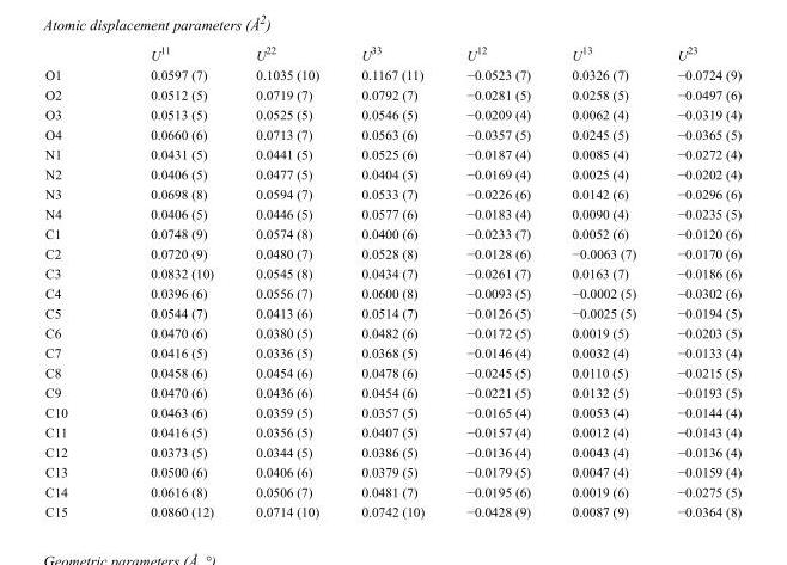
<table><thead><tr><td></td><td>U<sup>11</sup></td><td>U<sup>22</sup></td><td>U<sup>33</sup></td><td>U<sup>12</sup></td><td>U<sup>13</sup></td><td>U<sup>23</sup></td></tr></thead><tbody><tr><td>O1</td><td>0.0597 (7)</td><td>0.1035 (10)</td><td>0.1167 (11)</td><td>−0.0523 (7)</td><td>0.0326 (7)</td><td>−0.0724 (9)</td></tr><tr><td>O2</td><td>0.0512 (5)</td><td>0.0719 (7)</td><td>0.0792 (7)</td><td>−0.0281 (5)</td><td>0.0258 (5)</td><td>−0.0497 (6)</td></tr><tr><td>O3</td><td>0.0513 (5)</td><td>0.0525 (5)</td><td>0.0546 (5)</td><td>−0.0209 (4)</td><td>0.0062 (4)</td><td>−0.0319 (4)</td></tr><tr><td>O4</td><td>0.0660 (6)</td><td>0.0713 (7)</td><td>0.0563 (6)</td><td>−0.0357 (5)</td><td>0.0245 (5)</td><td>−0.0365 (5)</td></tr><tr><td>N1</td><td>0.0431 (5)</td><td>0.0441 (5)</td><td>0.0525 (6)</td><td>−0.0187 (4)</td><td>0.0085 (4)</td><td>−0.0272 (4)</td></tr><tr><td>N2</td><td>0.0406 (5)</td><td>0.0477 (5)</td><td>0.0404 (5)</td><td>−0.0169 (4)</td><td>0.0025 (4)</td><td>−0.0202 (4)</td></tr><tr><td>N3</td><td>0.0698 (8)</td><td>0.0594 (7)</td><td>0.0533 (7)</td><td>−0.0226 (6)</td><td>0.0142 (6)</td><td>−0.0296 (6)</td></tr><tr><td>N4</td><td>0.0406 (5)</td><td>0.0446 (5)</td><td>0.0577 (6)</td><td>−0.0183 (4)</td><td>0.0090 (4)</td><td>−0.0235 (5)</td></tr><tr><td>C1</td><td>0.0748 (9)</td><td>0.0574 (8)</td><td>0.0400 (6)</td><td>−0.0233 (7)</td><td>0.0052 (6)</td><td>−0.0120 (6)</td></tr><tr><td>C2</td><td>0.0720 (9)</td><td>0.0480 (7)</td><td>0.0528 (8)</td><td>−0.0128 (6)</td><td>−0.0063 (7)</td><td>−0.0170 (6)</td></tr><tr><td>C3</td><td>0.0832 (10)</td><td>0.0545 (8)</td><td>0.0434 (7)</td><td>−0.0261 (7)</td><td>0.0163 (7)</td><td>−0.0186 (6)</td></tr><tr><td>C4</td><td>0.0396 (6)</td><td>0.0556 (7)</td><td>0.0600 (8)</td><td>−0.0093 (5)</td><td>−0.0002 (5)</td><td>−0.0302 (6)</td></tr><tr><td>C5</td><td>0.0544 (7)</td><td>0.0413 (6)</td><td>0.0514 (7)</td><td>−0.0126 (5)</td><td>−0.0025 (5)</td><td>−0.0194 (5)</td></tr><tr><td>C6</td><td>0.0470 (6)</td><td>0.0380 (5)</td><td>0.0482 (6)</td><td>−0.0172 (5)</td><td>0.0019 (5)</td><td>−0.0203 (5)</td></tr><tr><td>C7</td><td>0.0416 (5)</td><td>0.0336 (5)</td><td>0.0368 (5)</td><td>−0.0146 (4)</td><td>0.0032 (4)</td><td>−0.0133 (4)</td></tr><tr><td>C8</td><td>0.0458 (6)</td><td>0.0454 (6)</td><td>0.0478 (6)</td><td>−0.0245 (5)</td><td>0.0110 (5)</td><td>−0.0215 (5)</td></tr><tr><td>C9</td><td>0.0470 (6)</td><td>0.0436 (6)</td><td>0.0454 (6)</td><td>−0.0221 (5)</td><td>0.0132 (5)</td><td>−0.0193 (5)</td></tr><tr><td>C10</td><td>0.0463 (6)</td><td>0.0359 (5)</td><td>0.0357 (5)</td><td>−0.0165 (4)</td><td>0.0053 (4)</td><td>−0.0144 (4)</td></tr><tr><td>C11</td><td>0.0416 (5)</td><td>0.0356 (5)</td><td>0.0407 (5)</td><td>−0.0157 (4)</td><td>0.0012 (4)</td><td>−0.0143 (4)</td></tr><tr><td>C12</td><td>0.0373 (5)</td><td>0.0344 (5)</td><td>0.0386 (5)</td><td>−0.0136 (4)</td><td>0.0043 (4)</td><td>−0.0136 (4)</td></tr><tr><td>C13</td><td>0.0500 (6)</td><td>0.0406 (6)</td><td>0.0379 (5)</td><td>−0.0179 (5)</td><td>0.0047 (4)</td><td>−0.0159 (4)</td></tr><tr><td>C14</td><td>0.0616 (8)</td><td>0.0506 (7)</td><td>0.0481 (7)</td><td>−0.0195 (6)</td><td>0.0019 (6)</td><td>−0.0275 (5)</td></tr><tr><td>C15</td><td>0.0860 (12)</td><td>0.0714 (10)</td><td>0.0742 (10)</td><td>−0.0428 (9)</td><td>0.0087 (9)</td><td>−0.0364 (8)</td></tr></tbody></table>